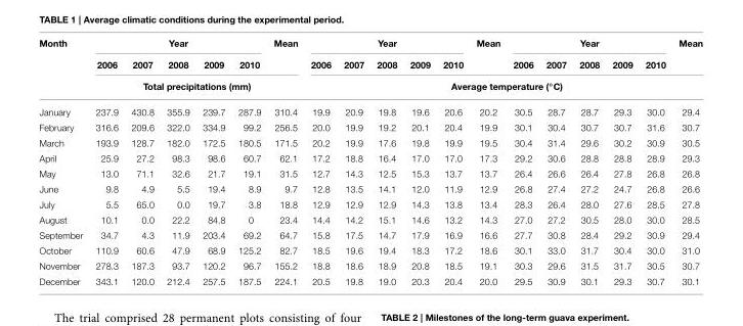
<table><thead><tr><td rowspan="3">Month</td><td colspan="5">Year</td><td rowspan="2">Mean</td><td colspan="5">Year</td><td rowspan="2">Mean</td><td colspan="5">Year</td><td rowspan="2">Mean</td></tr><tr><td>2006</td><td>2007</td><td>2008</td><td>2009</td><td>2010</td><td>2006</td><td>2007</td><td>2008</td><td>2009</td><td>2010</td><td>2006</td><td>2007</td><td>2008</td><td>2009</td><td>2010</td></tr><tr><td colspan="6">Total precipitations (mm)</td><td colspan="12">Average temperature (◦C)</td></tr></thead><tbody><tr><td>January</td><td>237.9</td><td>430.8</td><td>355.9</td><td>239.7</td><td>287.9</td><td>310.4</td><td>19.9</td><td>20.9</td><td>19.8</td><td>19.6</td><td>20.6</td><td>20.2</td><td>30.5</td><td>28.7</td><td>28.7</td><td>29.3</td><td>30.0</td><td>29.4</td></tr><tr><td>February</td><td>316.6</td><td>209.6</td><td>322.0</td><td>334.9</td><td>99.2</td><td>256.5</td><td>20.0</td><td>19.9</td><td>19.2</td><td>20.1</td><td>20.4</td><td>19.9</td><td>30.1</td><td>30.4</td><td>30.7</td><td>30.7</td><td>31.6</td><td>30.7</td></tr><tr><td>March</td><td>193.9</td><td>128.7</td><td>182.0</td><td>172.5</td><td>180.5</td><td>171.5</td><td>20.2</td><td>19.9</td><td>17.6</td><td>19.8</td><td>19.9</td><td>19.5</td><td>30.4</td><td>31.4</td><td>29.6</td><td>30.2</td><td>30.9</td><td>30.5</td></tr><tr><td>April</td><td>25.9</td><td>27.2</td><td>98.3</td><td>98.6</td><td>60.7</td><td>62.1</td><td>17.2</td><td>18.8</td><td>16.4</td><td>17.0</td><td>17.0</td><td>17.3</td><td>29.2</td><td>30.6</td><td>28.8</td><td>28.8</td><td>28.9</td><td>29.3</td></tr><tr><td>May</td><td>13.0</td><td>71.1</td><td>32.6</td><td>21.7</td><td>19.1</td><td>31.5</td><td>12.7</td><td>14.3</td><td>12.5</td><td>15.3</td><td>13.7</td><td>13.7</td><td>26.4</td><td>26.6</td><td>26.4</td><td>27.8</td><td>26.8</td><td>26.8</td></tr><tr><td>June</td><td>9.8</td><td>4.9</td><td>5.5</td><td>19.4</td><td>8.9</td><td>9.7</td><td>12.8</td><td>13.5</td><td>14.1</td><td>12.0</td><td>11.9</td><td>12.9</td><td>26.8</td><td>27.4</td><td>27.2</td><td>24.7</td><td>26.8</td><td>26.6</td></tr><tr><td>July</td><td>5.5</td><td>65.0</td><td>0.0</td><td>19.7</td><td>3.8</td><td>18.8</td><td>12.9</td><td>12.9</td><td>12.9</td><td>14.3</td><td>13.8</td><td>13.4</td><td>28.3</td><td>26.4</td><td>28.0</td><td>27.6</td><td>28.5</td><td>27.8</td></tr><tr><td>August</td><td>10.1</td><td>0.0</td><td>22.2</td><td>84.8</td><td>0</td><td>23.4</td><td>14.4</td><td>14.2</td><td>15.1</td><td>14.6</td><td>13.2</td><td>14.3</td><td>27.0</td><td>27.2</td><td>30.5</td><td>28.0</td><td>30.0</td><td>28.5</td></tr><tr><td>September</td><td>34.7</td><td>4.3</td><td>11.9</td><td>203.4</td><td>69.2</td><td>64.7</td><td>15.8</td><td>17.5</td><td>14.7</td><td>17.9</td><td>16.9</td><td>16.6</td><td>27.7</td><td>30.8</td><td>28.4</td><td>29.2</td><td>30.9</td><td>29.4</td></tr><tr><td>October</td><td>110.9</td><td>60.6</td><td>47.9</td><td>68.9</td><td>125.2</td><td>82.7</td><td>18.5</td><td>19.6</td><td>19.4</td><td>18.3</td><td>17.2</td><td>18.6</td><td>30.1</td><td>33.0</td><td>31.7</td><td>30.4</td><td>30.0</td><td>31.0</td></tr><tr><td>November</td><td>278.3</td><td>187.3</td><td>93.7</td><td>120.2</td><td>96.7</td><td>155.2</td><td>18.8</td><td>18.6</td><td>18.9</td><td>20.8</td><td>18.5</td><td>19.1</td><td>30.3</td><td>29.6</td><td>31.5</td><td>31.7</td><td>30.5</td><td>30.7</td></tr><tr><td>December</td><td>343.1</td><td>120.0</td><td>212.4</td><td>257.5</td><td>187.5</td><td>224.1</td><td>20.5</td><td>19.8</td><td>19.0</td><td>20.3</td><td>20.4</td><td>20.0</td><td>29.5</td><td>30.9</td><td>30.1</td><td>29.3</td><td>30.7</td><td>30.1</td></tr></tbody></table>